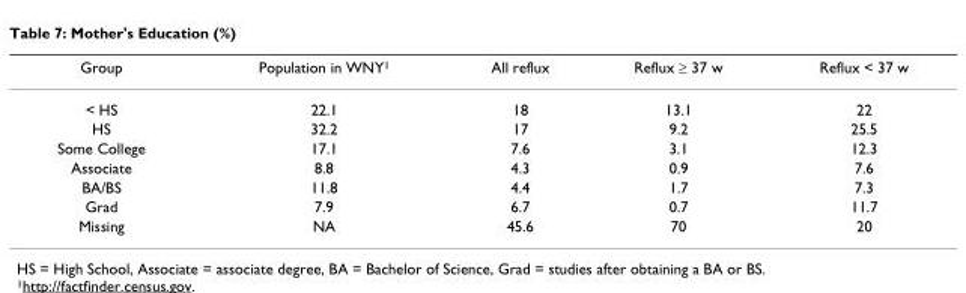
<table><thead><tr><td>Group</td><td>Population in WNY<sup>1</sup></td><td>All reflux</td><td>Reflux ≥ 37 w</td><td>Reflux &lt; 37 w</td></tr></thead><tbody><tr><td>&lt; HS</td><td>22.1</td><td>18</td><td>13.1</td><td>22</td></tr><tr><td>HS</td><td>32.2</td><td>17</td><td>9.2</td><td>25.5</td></tr><tr><td>Some College</td><td>17.1</td><td>7.6</td><td>3.1</td><td>12.3</td></tr><tr><td>Associate</td><td>8.8</td><td>4.3</td><td>0.9</td><td>7.6</td></tr><tr><td>BA/BS</td><td>11.8</td><td>4.4</td><td>1.7</td><td>7.3</td></tr><tr><td>Grad</td><td>7.9</td><td>6.7</td><td>0.7</td><td>11.7</td></tr><tr><td>Missing</td><td>NA</td><td>45.6</td><td>70</td><td>20</td></tr></tbody></table>